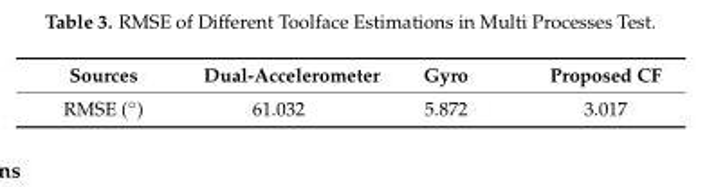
<table><thead><tr><td>Sources</td><td>Dual-Accelerometer</td><td>Gyro</td><td>Proposed CF</td></tr></thead><tbody><tr><td>RMSE (◦)</td><td>61.032</td><td>5.872</td><td>3.017</td></tr></tbody></table>